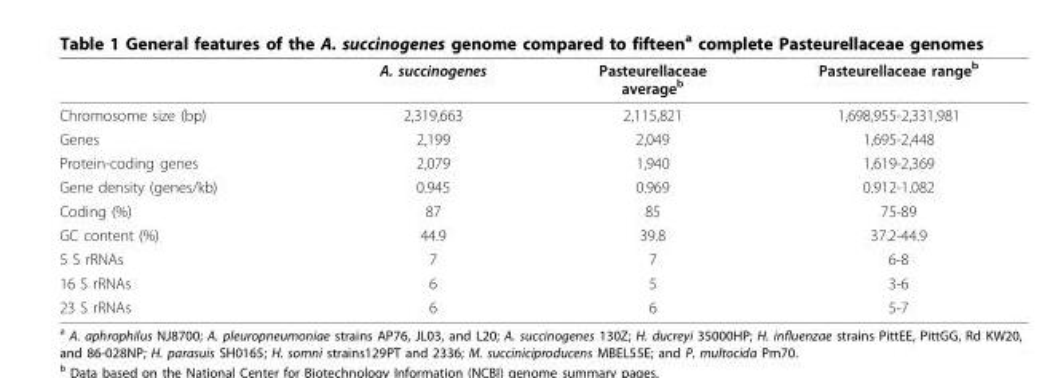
<table><thead><tr><td></td><td>A. succinogenes</td><td>Pasteurellaceae average<sup>b</sup></td><td>Pasteurellaceae range<sup>b</sup></td></tr></thead><tbody><tr><td>Chromosome size (bp)</td><td>2,319,663</td><td>2,115,821</td><td>1,698,955-2,331,981</td></tr><tr><td>Genes</td><td>2,199</td><td>2,049</td><td>1,695-2,448</td></tr><tr><td>Protein-coding genes</td><td>2,079</td><td>1,940</td><td>1,619-2,369</td></tr><tr><td>Gene density (genes/kb)</td><td>0.945</td><td>0.969</td><td>0.912-1.082</td></tr><tr><td>Coding (%)</td><td>87</td><td>85</td><td>75-89</td></tr><tr><td>GC content (%)</td><td>44.9</td><td>39.8</td><td>37.2-44.9</td></tr><tr><td>5 S rRNAs</td><td>7</td><td>7</td><td>6-8</td></tr><tr><td>16 S rRNAs</td><td>6</td><td>5</td><td>3-6</td></tr><tr><td>23 S rRNAs</td><td>6</td><td>6</td><td>5-7</td></tr></tbody></table>